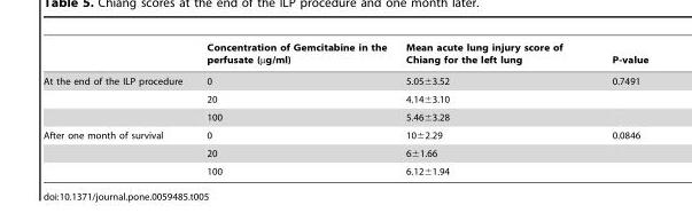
<table><thead><tr><td></td><td>Concentration of Gemcitabine in the perfusate (µg/ml)</td><td>Mean acute lung injury score of Chiang for the left lung</td><td>P-value</td></tr></thead><tbody><tr><td rowspan="3">At the end of the ILP procedure</td><td>0</td><td>5.05±3.52</td><td>0.7491</td></tr><tr><td>20</td><td>4.14±3.10</td><td></td></tr><tr><td>100</td><td>5.46±3.28</td><td></td></tr><tr><td rowspan="3">After one month of survival</td><td>0</td><td>10±2.29</td><td>0.0846</td></tr><tr><td>20</td><td>6±1.66</td><td></td></tr><tr><td>100</td><td>6.12±1.94</td><td></td></tr></tbody></table>